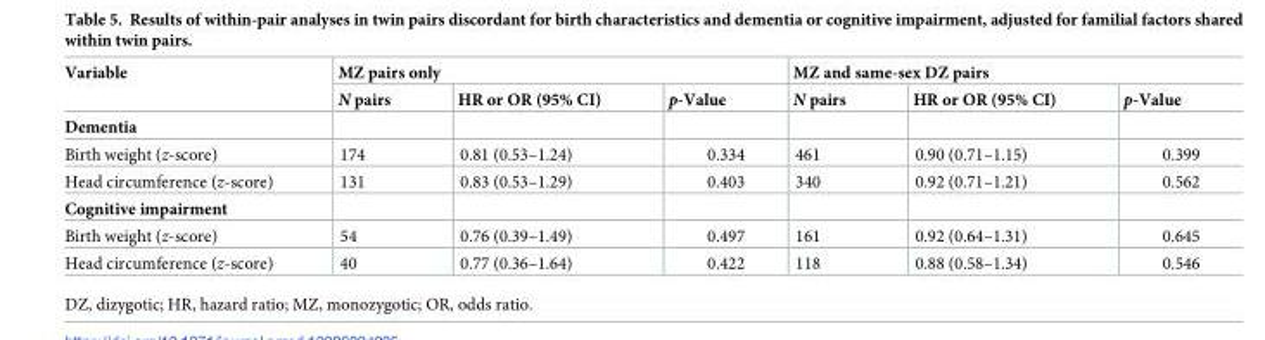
<table><thead><tr><td rowspan="2">Variable</td><td colspan="3">MZ pairs only</td><td colspan="3">MZ and same-sex DZ pairs</td></tr><tr><td>N pairs</td><td>HR or OR (95% CI)</td><td>p-Value</td><td>N pairs</td><td>HR or OR (95% CI)</td><td>p-Value</td></tr></thead><tbody><tr><td colspan="7">Dementia</td></tr><tr><td>Birth weight (z-score)</td><td>174</td><td>0.81 (0.53–1.24)</td><td>0.334</td><td>461</td><td>0.90 (0.71–1.15)</td><td>0.399</td></tr><tr><td>Head circumference (z-score)</td><td>131</td><td>0.83 (0.53–1.29)</td><td>0.403</td><td>340</td><td>0.92 (0.71–1.21)</td><td>0.562</td></tr><tr><td colspan="7">Cognitive impairment</td></tr><tr><td>Birth weight (z-score)</td><td>54</td><td>0.76 (0.39–1.49)</td><td>0.497</td><td>161</td><td>0.92 (0.64–1.31)</td><td>0.645</td></tr><tr><td>Head circumference (z-score)</td><td>40</td><td>0.77 (0.36–1.64)</td><td>0.422</td><td>118</td><td>0.88 (0.58–1.34)</td><td>0.546</td></tr></tbody></table>